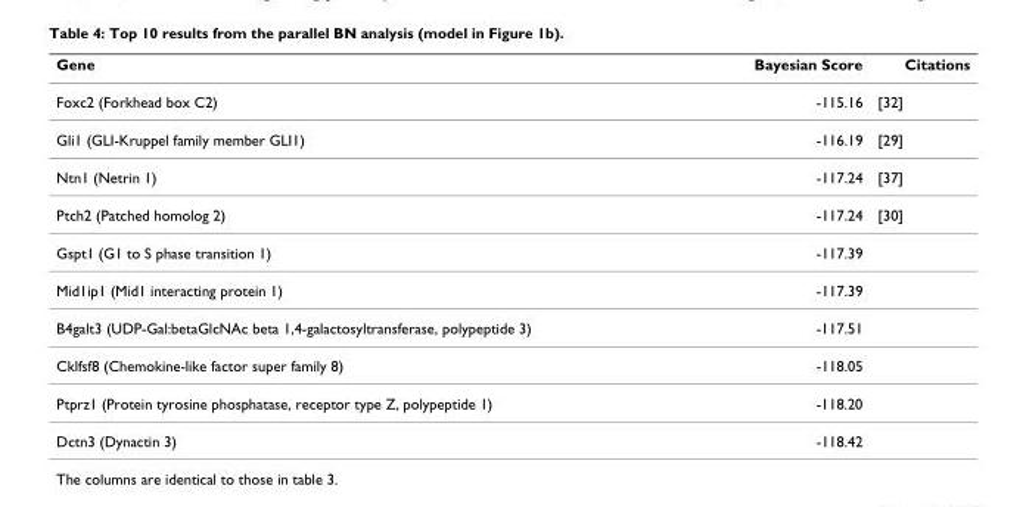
<table><thead><tr><td>Gene</td><td>Bayesian Score</td><td>Citations</td></tr></thead><tbody><tr><td>Foxc2 (Forkhead box C2)</td><td>-115.16</td><td>[32]</td></tr><tr><td>Gli1 (GLI-Kruppel family member GLI1)</td><td>-116.19</td><td>[29]</td></tr><tr><td>Ntn1 (Netrin 1)</td><td>-117.24</td><td>[37]</td></tr><tr><td>Ptch2 (Patched homolog 2)</td><td>-117.24</td><td>[30]</td></tr><tr><td>Gspt1 (G1 to S phase transition 1)</td><td>-117.39</td><td></td></tr><tr><td>Mid1ip1 (Mid1 interacting protein 1)</td><td>-117.39</td><td></td></tr><tr><td>B4galt3 (UDP-Gal:betaGlcNAc beta 1,4-galactosyltransferase, polypeptide 3)</td><td>-117.51</td><td></td></tr><tr><td>Cklfsf8 (Chemokine-like factor super family 8)</td><td>-118.05</td><td></td></tr><tr><td>Ptprz1 (Protein tyrosine phosphatase, receptor type Z, polypeptide 1)</td><td>-118.20</td><td></td></tr><tr><td>Dctn3 (Dynactin 3)</td><td>-118.42</td><td></td></tr></tbody></table>